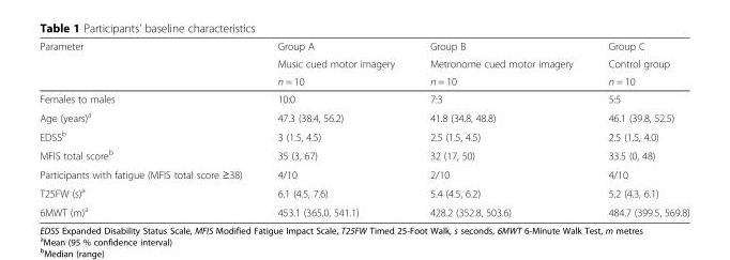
<table><thead><tr><td rowspan="3">Parameter</td><td rowspan="3">Group A Music cued motor imagery n = 10</td><td rowspan="3">Group B Metronome cued motor imagery n = 10</td><td rowspan="3">Group C Control group n = 10</td></tr><tr></tr><tr></tr></thead><tbody><tr><td>Females to males</td><td>10:0</td><td>7:3</td><td>5:5</td></tr><tr><td>Age (years)<sup>a</sup></td><td>47.3 (38.4, 56.2)</td><td>41.8 (34.8, 48.8)</td><td>46.1 (39.8, 52.5)</td></tr><tr><td>EDSS<sup>b</sup></td><td>3 (1.5, 4.5)</td><td>2.5 (1.5, 4.5)</td><td>2.5 (1.5, 4.0)</td></tr><tr><td>MFIS total score<sup>b</sup></td><td>35 (3, 67)</td><td>32 (17, 50)</td><td>33.5 (0, 48)</td></tr><tr><td>Participants with fatigue (MFIS total score ≥38)</td><td>4/10</td><td>2/10</td><td>4/10</td></tr><tr><td>T25FW (s)<sup>a</sup></td><td>6.1 (4.5, 7.6)</td><td>5.4 (4.5, 6.2)</td><td>5.2 (4.3, 6.1)</td></tr><tr><td>6MWT (m)<sup>a</sup></td><td>453.1 (365.0, 541.1)</td><td>428.2 (352.8, 503.6)</td><td>484.7 (399.5, 569.8)</td></tr></tbody></table>